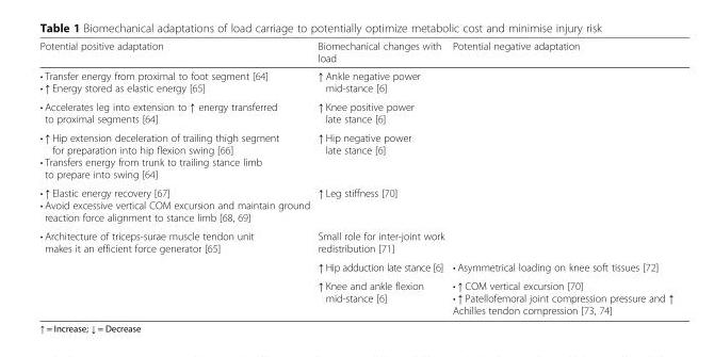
<table><thead><tr><td>Potential positive adaptation</td><td>Biomechanical changes with load</td><td>Potential negative adaptation</td></tr></thead><tbody><tr><td>• Transfer energy from proximal to foot segment [64] • ↑ Energy stored as elastic energy [65]</td><td>↑ Ankle negative power mid-stance [6]</td><td rowspan="5"></td></tr><tr><td>• Accelerates leg into extension to ↑ energy transferred to proximal segments [64]</td><td>↑ Knee positive power late stance [6]</td></tr><tr><td>• ↑ Hip extension deceleration of trailing thigh segment for preparation into hip flexion swing [66] • Transfers energy from trunk to trailing stance limb to prepare into swing [64]</td><td>↑ Hip negative power late stance [6]</td></tr><tr><td>• ↑ Elastic energy recovery [67] • Avoid excessive vertical COM excursion and maintain ground reaction force alignment to stance limb [68, 69]</td><td>↑ Leg stiffness [70]</td></tr><tr><td rowspan="3">• Architecture of triceps-surae muscle tendon unit makes it an efficient force generator [65]</td><td>Small role for inter-joint work redistribution [71]</td></tr><tr><td>↑ Hip adduction late stance [6]</td><td>• Asymmetrical loading on knee soft tissues [72]</td></tr><tr><td>↑ Knee and ankle flexion mid-stance [6]</td><td>• ↑ COM vertical excursion [70] • ↑ Patellofemoral joint compression pressure and ↑ Achilles tendon compression [73, 74]</td></tr></tbody></table>